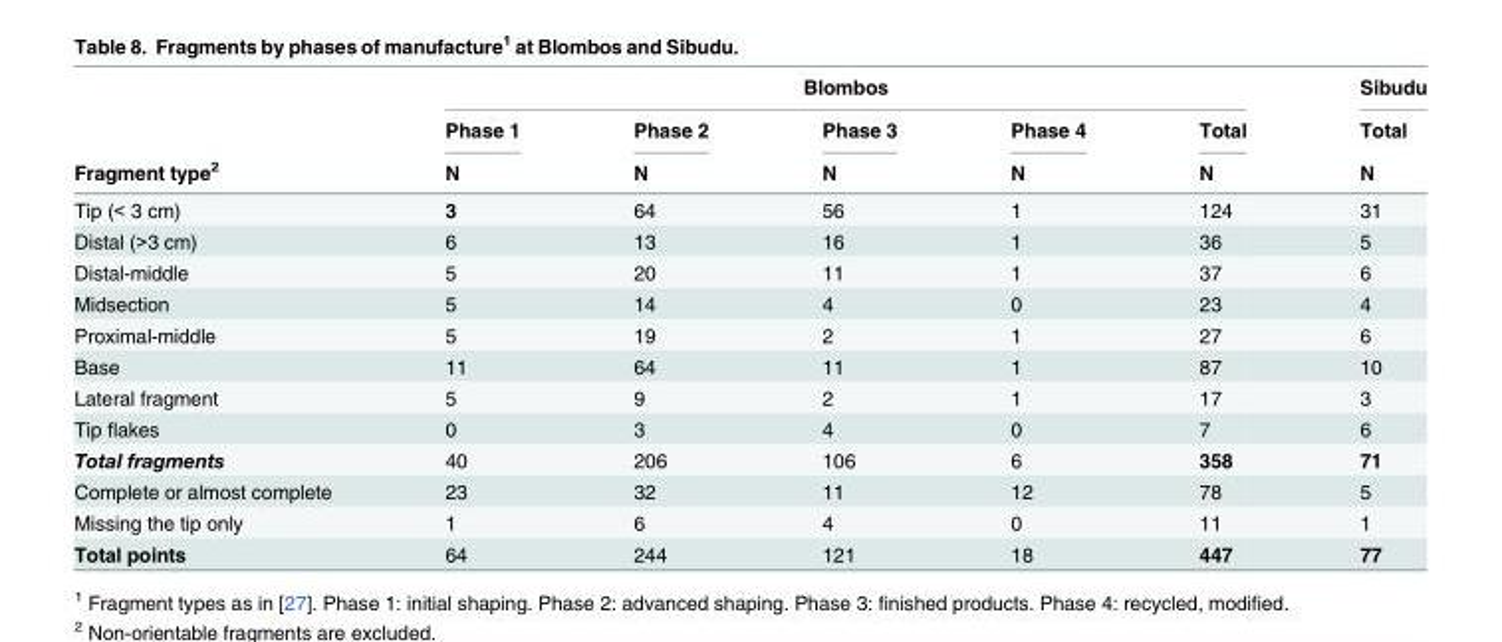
<table><thead><tr><td rowspan="3">Fragment type<sup>2</sup></td><td colspan="5">Blombos</td><td rowspan="3">Sibudu Total N</td></tr><tr><td rowspan="2">Phase 1 N</td><td rowspan="2">Phase 2 N</td><td rowspan="2">Phase 3 N</td><td rowspan="2">Phase 4 N</td><td rowspan="2">Total N</td></tr><tr></tr></thead><tbody><tr><td>Tip (&lt; 3 cm)</td><td>3</td><td>64</td><td>56</td><td>1</td><td>124</td><td>31</td></tr><tr><td>Distal (&gt;3 cm)</td><td>6</td><td>13</td><td>16</td><td>1</td><td>36</td><td>5</td></tr><tr><td>Distal-middle</td><td>5</td><td>20</td><td>11</td><td>1</td><td>37</td><td>6</td></tr><tr><td>Midsection</td><td>5</td><td>14</td><td>4</td><td>0</td><td>23</td><td>4</td></tr><tr><td>Proximal-middle</td><td>5</td><td>19</td><td>2</td><td>1</td><td>27</td><td>6</td></tr><tr><td>Base</td><td>11</td><td>64</td><td>11</td><td>1</td><td>87</td><td>10</td></tr><tr><td>Lateral fragment</td><td>5</td><td>9</td><td>2</td><td>1</td><td>17</td><td>3</td></tr><tr><td>Tip flakes</td><td>0</td><td>3</td><td>4</td><td>0</td><td>7</td><td>6</td></tr><tr><td>Total fragments</td><td>40</td><td>206</td><td>106</td><td>6</td><td>358</td><td>71</td></tr><tr><td>Complete or almost complete</td><td>23</td><td>32</td><td>11</td><td>12</td><td>78</td><td>5</td></tr><tr><td>Missing the tip only</td><td>1</td><td>6</td><td>4</td><td>0</td><td>11</td><td>1</td></tr><tr><td>Total points</td><td>64</td><td>244</td><td>121</td><td>18</td><td>447</td><td>77</td></tr></tbody></table>